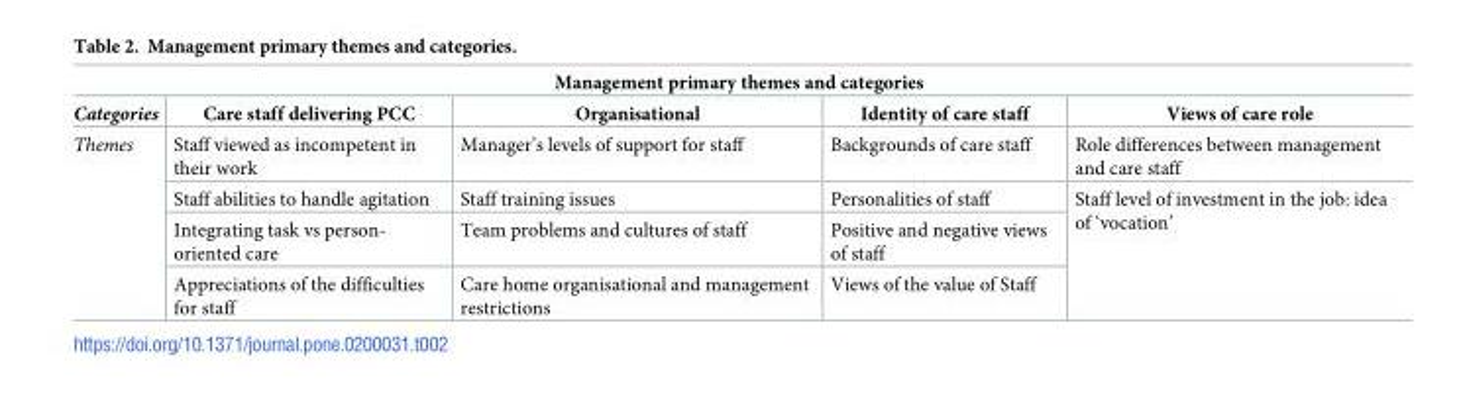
<table><thead><tr><td colspan="5">Management primary themes and categories</td></tr><tr><td>Categories</td><td>Care staff delivering PCC</td><td>Organisational</td><td>Identity of care staff</td><td>Views of care role</td></tr></thead><tbody><tr><td rowspan="4">Themes</td><td>Staff viewed as incompetent in their work</td><td>Manager’s levels of support for staff</td><td>Backgrounds of care staff</td><td>Role differences between management and care staff</td></tr><tr><td>Staff abilities to handle agitation</td><td>Staff training issues</td><td>Personalities of staff</td><td rowspan="3">Staff level of investment in the job: idea of ‘vocation’</td></tr><tr><td>Integrating task vs person- oriented care</td><td>Team problems and cultures of staff</td><td>Positive and negative views of staff</td></tr><tr><td>Appreciations of the difficulties for staff</td><td>Care home organisational and management restrictions</td><td>Views of the value of Staff</td></tr></tbody></table>